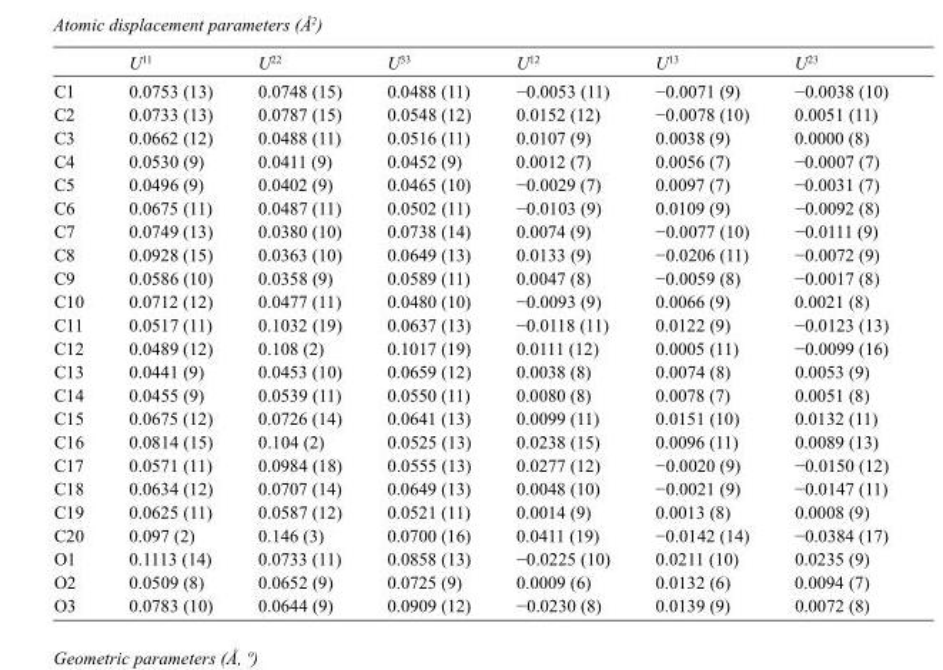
<table><thead><tr><td></td><td>U<sup>11</sup></td><td>U<sup>22</sup></td><td>U<sup>33</sup></td><td>U<sup>12</sup></td><td>U<sup>13</sup></td><td>U<sup>23</sup></td></tr></thead><tbody><tr><td>C1</td><td>0.0753 (13)</td><td>0.0748 (15)</td><td>0.0488 (11)</td><td>−0.0053 (11)</td><td>−0.0071 (9)</td><td>−0.0038 (10)</td></tr><tr><td>C2</td><td>0.0733 (13)</td><td>0.0787 (15)</td><td>0.0548 (12)</td><td>0.0152 (12)</td><td>−0.0078 (10)</td><td>0.0051 (11)</td></tr><tr><td>C3</td><td>0.0662 (12)</td><td>0.0488 (11)</td><td>0.0516 (11)</td><td>0.0107 (9)</td><td>0.0038 (9)</td><td>0.0000 (8)</td></tr><tr><td>C4</td><td>0.0530 (9)</td><td>0.0411 (9)</td><td>0.0452 (9)</td><td>0.0012 (7)</td><td>0.0056 (7)</td><td>−0.0007 (7)</td></tr><tr><td>C5</td><td>0.0496 (9)</td><td>0.0402 (9)</td><td>0.0465 (10)</td><td>−0.0029 (7)</td><td>0.0097 (7)</td><td>−0.0031 (7)</td></tr><tr><td>C6</td><td>0.0675 (11)</td><td>0.0487 (11)</td><td>0.0502 (11)</td><td>−0.0103 (9)</td><td>0.0109 (9)</td><td>−0.0092 (8)</td></tr><tr><td>C7</td><td>0.0749 (13)</td><td>0.0380 (10)</td><td>0.0738 (14)</td><td>0.0074 (9)</td><td>−0.0077 (10)</td><td>−0.0111 (9)</td></tr><tr><td>C8</td><td>0.0928 (15)</td><td>0.0363 (10)</td><td>0.0649 (13)</td><td>0.0133 (9)</td><td>−0.0206 (11)</td><td>−0.0072 (9)</td></tr><tr><td>C9</td><td>0.0586 (10)</td><td>0.0358 (9)</td><td>0.0589 (11)</td><td>0.0047 (8)</td><td>−0.0059 (8)</td><td>−0.0017 (8)</td></tr><tr><td>C10</td><td>0.0712 (12)</td><td>0.0477 (11)</td><td>0.0480 (10)</td><td>−0.0093 (9)</td><td>0.0066 (9)</td><td>0.0021 (8)</td></tr><tr><td>C11</td><td>0.0517 (11)</td><td>0.1032 (19)</td><td>0.0637 (13)</td><td>−0.0118 (11)</td><td>0.0122 (9)</td><td>−0.0123 (13)</td></tr><tr><td>C12</td><td>0.0489 (12)</td><td>0.108 (2)</td><td>0.1017 (19)</td><td>0.0111 (12)</td><td>0.0005 (11)</td><td>−0.0099 (16)</td></tr><tr><td>C13</td><td>0.0441 (9)</td><td>0.0453 (10)</td><td>0.0659 (12)</td><td>0.0038 (8)</td><td>0.0074 (8)</td><td>0.0053 (9)</td></tr><tr><td>C14</td><td>0.0455 (9)</td><td>0.0539 (11)</td><td>0.0550 (11)</td><td>0.0080 (8)</td><td>0.0078 (7)</td><td>0.0051 (8)</td></tr><tr><td>C15</td><td>0.0675 (12)</td><td>0.0726 (14)</td><td>0.0641 (13)</td><td>0.0099 (11)</td><td>0.0151 (10)</td><td>0.0132 (11)</td></tr><tr><td>C16</td><td>0.0814 (15)</td><td>0.104 (2)</td><td>0.0525 (13)</td><td>0.0238 (15)</td><td>0.0096 (11)</td><td>0.0089 (13)</td></tr><tr><td>C17</td><td>0.0571 (11)</td><td>0.0984 (18)</td><td>0.0555 (13)</td><td>0.0277 (12)</td><td>−0.0020 (9)</td><td>−0.0150 (12)</td></tr><tr><td>C18</td><td>0.0634 (12)</td><td>0.0707 (14)</td><td>0.0649 (13)</td><td>0.0048 (10)</td><td>−0.0021 (9)</td><td>−0.0147 (11)</td></tr><tr><td>C19</td><td>0.0625 (11)</td><td>0.0587 (12)</td><td>0.0521 (11)</td><td>0.0014 (9)</td><td>0.0013 (8)</td><td>0.0008 (9)</td></tr><tr><td>C20</td><td>0.097 (2)</td><td>0.146 (3)</td><td>0.0700 (16)</td><td>0.0411 (19)</td><td>−0.0142 (14)</td><td>−0.0384 (17)</td></tr><tr><td>O1</td><td>0.1113 (14)</td><td>0.0733 (11)</td><td>0.0858 (13)</td><td>−0.0225 (10)</td><td>0.0211 (10)</td><td>0.0235 (9)</td></tr><tr><td>O2</td><td>0.0509 (8)</td><td>0.0652 (9)</td><td>0.0725 (9)</td><td>0.0009 (6)</td><td>0.0132 (6)</td><td>0.0094 (7)</td></tr><tr><td>O3</td><td>0.0783 (10)</td><td>0.0644 (9)</td><td>0.0909 (12)</td><td>−0.0230 (8)</td><td>0.0139 (9)</td><td>0.0072 (8)</td></tr></tbody></table>